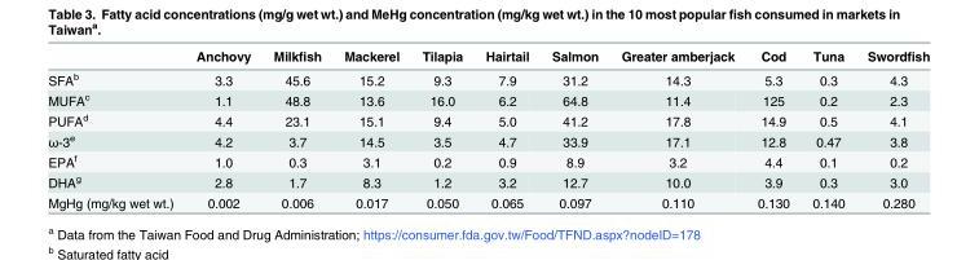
<table><thead><tr><td></td><td>Anchovy</td><td>Milkfish</td><td>Mackerel</td><td>Tilapia</td><td>Hairtail</td><td>Salmon</td><td>Greater amberjack</td><td>Cod</td><td>Tuna</td><td>Swordfish</td></tr></thead><tbody><tr><td>SFA<sup>b</sup></td><td>3.3</td><td>45.6</td><td>15.2</td><td>9.3</td><td>7.9</td><td>31.2</td><td>14.3</td><td>5.3</td><td>0.3</td><td>4.3</td></tr><tr><td>MUFA<sup>c</sup></td><td>1.1</td><td>48.8</td><td>13.6</td><td>16.0</td><td>6.2</td><td>64.8</td><td>11.4</td><td>125</td><td>0.2</td><td>2.3</td></tr><tr><td>PUFA<sup>d</sup></td><td>4.4</td><td>23.1</td><td>15.1</td><td>9.4</td><td>5.0</td><td>41.2</td><td>17.8</td><td>14.9</td><td>0.5</td><td>4.1</td></tr><tr><td>ω-3<sup>e</sup></td><td>4.2</td><td>3.7</td><td>14.5</td><td>3.5</td><td>4.7</td><td>33.9</td><td>17.1</td><td>12.8</td><td>0.47</td><td>3.8</td></tr><tr><td>EPA<sup>f</sup></td><td>1.0</td><td>0.3</td><td>3.1</td><td>0.2</td><td>0.9</td><td>8.9</td><td>3.2</td><td>4.4</td><td>0.1</td><td>0.2</td></tr><tr><td>DHA<sup>g</sup></td><td>2.8</td><td>1.7</td><td>8.3</td><td>1.2</td><td>3.2</td><td>12.7</td><td>10.0</td><td>3.9</td><td>0.3</td><td>3.0</td></tr><tr><td>MgHg (mg/kg wet wt.)</td><td>0.002</td><td>0.006</td><td>0.017</td><td>0.050</td><td>0.065</td><td>0.097</td><td>0.110</td><td>0.130</td><td>0.140</td><td>0.280</td></tr></tbody></table>